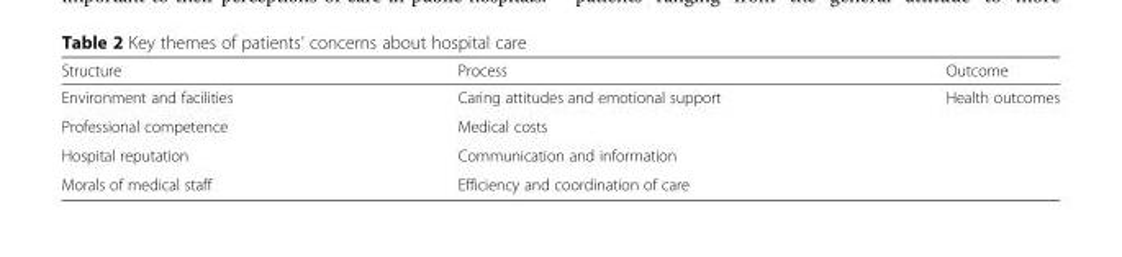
<table><thead><tr><td>Structure</td><td>Process</td><td>Outcome</td></tr></thead><tbody><tr><td>Environment and facilities</td><td>Caring attitudes and emotional support</td><td>Health outcomes</td></tr><tr><td>Professional competence</td><td>Medical costs</td><td></td></tr><tr><td>Hospital reputation</td><td>Communication and information</td><td></td></tr><tr><td>Morals of medical staff</td><td>Efficiency and coordination of care</td><td></td></tr></tbody></table>